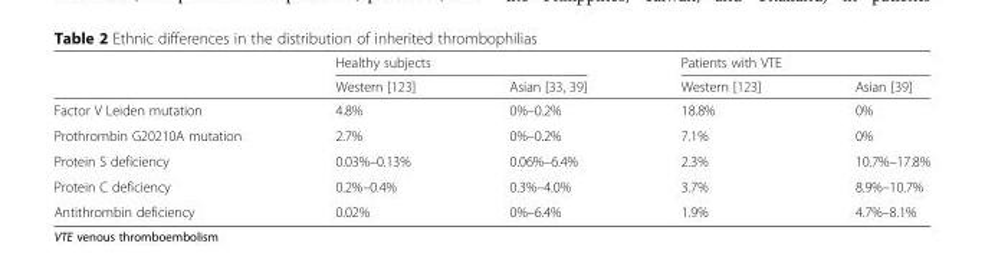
<table><thead><tr><td rowspan="2"></td><td colspan="2">Healthy subjects</td><td colspan="2">Patients with VTE</td></tr><tr><td>Western [123]</td><td>Asian [33, 39]</td><td>Western [123]</td><td>Asian [39]</td></tr></thead><tbody><tr><td>Factor V Leiden mutation</td><td>4.8%</td><td>0%–0.2%</td><td>18.8%</td><td>0%</td></tr><tr><td>Prothrombin G20210A mutation</td><td>2.7%</td><td>0%–0.2%</td><td>7.1%</td><td>0%</td></tr><tr><td>Protein S deficiency</td><td>0.03%–0.13%</td><td>0.06%–6.4%</td><td>2.3%</td><td>10.7%–17.8%</td></tr><tr><td>Protein C deficiency</td><td>0.2%–0.4%</td><td>0.3%–4.0%</td><td>3.7%</td><td>8.9%–10.7%</td></tr><tr><td>Antithrombin deficiency</td><td>0.02%</td><td>0%–6.4%</td><td>1.9%</td><td>4.7%–8.1%</td></tr></tbody></table>